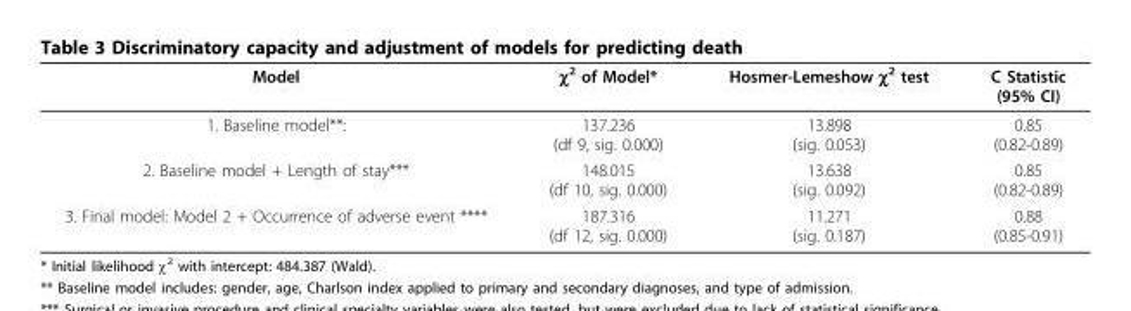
<table><thead><tr><td>Model</td><td>χ<sup>2</sup> of Model*</td><td>Hosmer-Lemeshow χ<sup>2</sup> test</td><td>C Statistic (95% CI)</td></tr></thead><tbody><tr><td>1. Baseline model**:</td><td>137.236 (df 9, sig. 0.000)</td><td>13.898 (sig. 0.053)</td><td>0.85 (0.82-0.89)</td></tr><tr><td>2. Baseline model + Length of stay***</td><td>148.015 (df 10, sig. 0.000)</td><td>13.638 (sig. 0.092)</td><td>0.85 (0.82-0.89)</td></tr><tr><td>3. Final model: Model 2 + Occurrence of adverse event ****</td><td>187.316 (df 12, sig. 0.000)</td><td>11.271 (sig. 0.187)</td><td>0.88 (0.85-0.91)</td></tr></tbody></table>